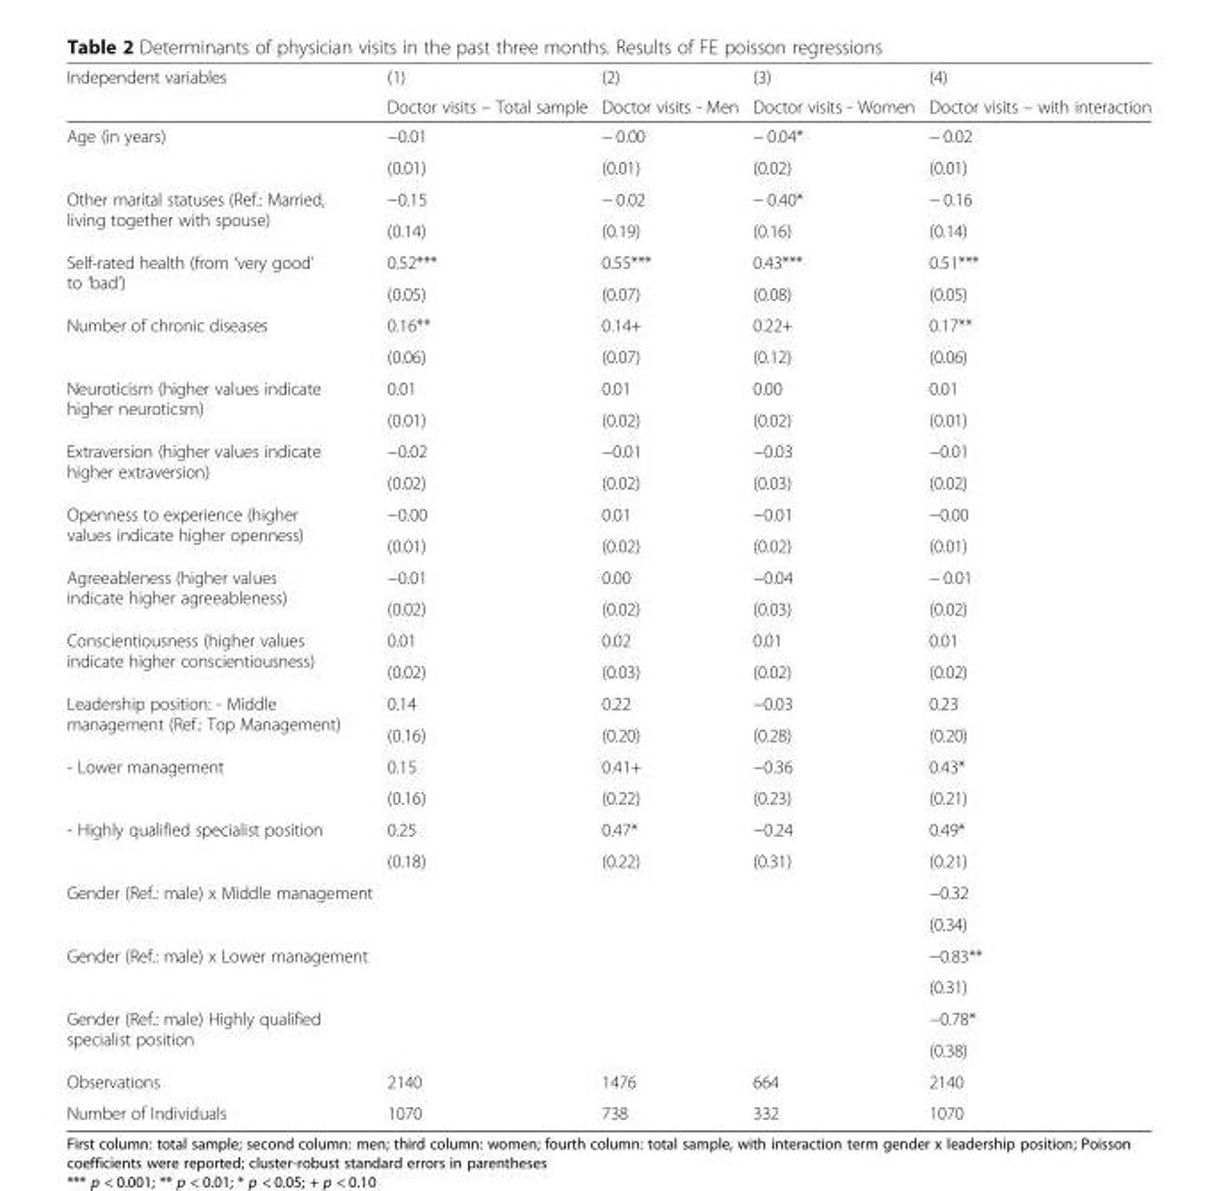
<table><thead><tr><td rowspan="2">Independent variables</td><td rowspan="2">(1) Doctor visits – Total sample</td><td rowspan="2">(2) Doctor visits - Men</td><td rowspan="2">(3) Doctor visits - Women</td><td rowspan="2">(4) Doctor visits – with interaction</td></tr><tr></tr></thead><tbody><tr><td rowspan="2">Age (in years)</td><td>−0.01</td><td>− 0.00</td><td>− 0.04*</td><td>− 0.02</td></tr><tr><td>(0.01)</td><td>(0.01)</td><td>(0.02)</td><td>(0.01)</td></tr><tr><td rowspan="2">Other marital statuses (Ref.: Married, living together with spouse)</td><td>−0.15</td><td>− 0.02</td><td>− 0.40*</td><td>− 0.16</td></tr><tr><td>(0.14)</td><td>(0.19)</td><td>(0.16)</td><td>(0.14)</td></tr><tr><td rowspan="2">Self-rated health (from ‘very good’ to ‘bad’)</td><td>0.52***</td><td>0.55***</td><td>0.43***</td><td>0.51***</td></tr><tr><td>(0.05)</td><td>(0.07)</td><td>(0.08)</td><td>(0.05)</td></tr><tr><td rowspan="2">Number of chronic diseases</td><td>0.16**</td><td>0.14+</td><td>0.22+</td><td>0.17**</td></tr><tr><td>(0.06)</td><td>(0.07)</td><td>(0.12)</td><td>(0.06)</td></tr><tr><td rowspan="2">Neuroticism (higher values indicate higher neuroticsm)</td><td>0.01</td><td>0.01</td><td>0.00</td><td>0.01</td></tr><tr><td>(0.01)</td><td>(0.02)</td><td>(0.02)</td><td>(0.01)</td></tr><tr><td rowspan="2">Extraversion (higher values indicate higher extraversion)</td><td>−0.02</td><td>−0.01</td><td>−0.03</td><td>−0.01</td></tr><tr><td>(0.02)</td><td>(0.02)</td><td>(0.03)</td><td>(0.02)</td></tr><tr><td rowspan="2">Openness to experience (higher values indicate higher openness)</td><td>−0.00</td><td>0.01</td><td>−0.01</td><td>−0.00</td></tr><tr><td>(0.01)</td><td>(0.02)</td><td>(0.02)</td><td>(0.01)</td></tr><tr><td rowspan="2">Agreeableness (higher values indicate higher agreeableness)</td><td>−0.01</td><td>0.00</td><td>−0.04</td><td>− 0.01</td></tr><tr><td>(0.02)</td><td>(0.02)</td><td>(0.03)</td><td>(0.02)</td></tr><tr><td rowspan="2">Conscientiousness (higher values indicate higher conscientiousness)</td><td>0.01</td><td>0.02</td><td>0.01</td><td>0.01</td></tr><tr><td>(0.02)</td><td>(0.03)</td><td>(0.02)</td><td>(0.02)</td></tr><tr><td rowspan="2">Leadership position: - Middle management (Ref.: Top Management)</td><td>0.14</td><td>0.22</td><td>−0.03</td><td>0.23</td></tr><tr><td>(0.16)</td><td>(0.20)</td><td>(0.28)</td><td>(0.20)</td></tr><tr><td rowspan="2">- Lower management</td><td>0.15</td><td>0.41+</td><td>−0.36</td><td>0.43*</td></tr><tr><td>(0.16)</td><td>(0.22)</td><td>(0.23)</td><td>(0.21)</td></tr><tr><td rowspan="2">- Highly qualified specialist position</td><td>0.25</td><td>0.47*</td><td>−0.24</td><td>0.49*</td></tr><tr><td>(0.18)</td><td>(0.22)</td><td>(0.31)</td><td>(0.21)</td></tr><tr><td rowspan="2">Gender (Ref.: male) x Middle management</td><td></td><td></td><td></td><td>−0.32</td></tr><tr><td></td><td></td><td></td><td>(0.34)</td></tr><tr><td rowspan="2">Gender (Ref.: male) x Lower management</td><td></td><td></td><td></td><td>−0.83**</td></tr><tr><td></td><td></td><td></td><td>(0.31)</td></tr><tr><td rowspan="2">Gender (Ref.: male) Highly qualified specialist position</td><td></td><td></td><td></td><td>−0.78*</td></tr><tr><td></td><td></td><td></td><td>(0.38)</td></tr><tr><td>Observations</td><td>2140</td><td>1476</td><td>664</td><td>2140</td></tr><tr><td>Number of Individuals</td><td>1070</td><td>738</td><td>332</td><td>1070</td></tr></tbody></table>